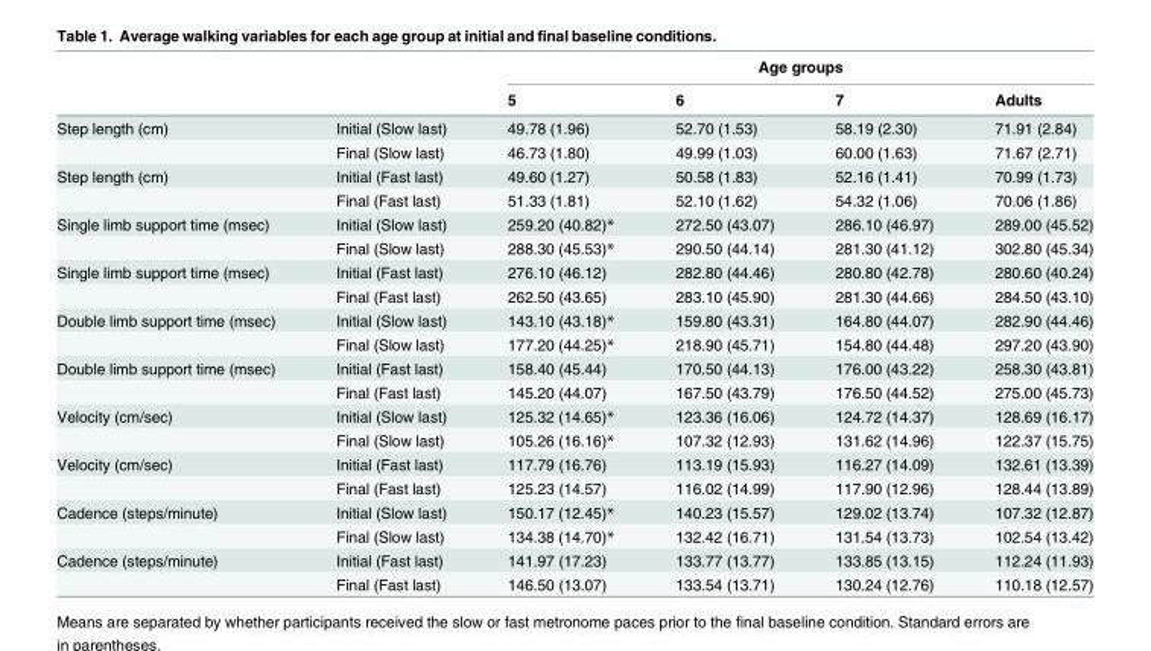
<table><thead><tr><td rowspan="2"></td><td rowspan="2"></td><td colspan="4">Age groups</td></tr><tr><td>5</td><td>6</td><td>7</td><td>Adults</td></tr></thead><tbody><tr><td rowspan="2">Step length (cm)</td><td>Initial (Slow last)</td><td>49.78 (1.96)</td><td>52.70 (1.53)</td><td>58.19 (2.30)</td><td>71.91 (2.84)</td></tr><tr><td>Final (Slow last)</td><td>46.73 (1.80)</td><td>49.99 (1.03)</td><td>60.00 (1.63)</td><td>71.67 (2.71)</td></tr><tr><td rowspan="2">Step length (cm)</td><td>Initial (Fast last)</td><td>49.60 (1.27)</td><td>50.58 (1.83)</td><td>52.16 (1.41)</td><td>70.99 (1.73)</td></tr><tr><td>Final (Fast last)</td><td>51.33 (1.81)</td><td>52.10 (1.62)</td><td>54.32 (1.06)</td><td>70.06 (1.86)</td></tr><tr><td rowspan="2">Single limb support time (msec)</td><td>Initial (Slow last)</td><td>259.20 (40.82)*</td><td>272.50 (43.07)</td><td>286.10 (46.97)</td><td>289.00 (45.52)</td></tr><tr><td>Final (Slow last)</td><td>288.30 (45.53)*</td><td>290.50 (44.14)</td><td>281.30 (41.12)</td><td>302.80 (45.34)</td></tr><tr><td rowspan="2">Single limb support time (msec)</td><td>Initial (Fast last)</td><td>276.10 (46.12)</td><td>282.80 (44.46)</td><td>280.80 (42.78)</td><td>280.60 (40.24)</td></tr><tr><td>Final (Fast last)</td><td>262.50 (43.65)</td><td>283.10 (45.90)</td><td>281.30 (44.66)</td><td>284.50 (43.10)</td></tr><tr><td rowspan="2">Double limb support time (msec)</td><td>Initial (Slow last)</td><td>143.10 (43.18)*</td><td>159.80 (43.31)</td><td>164.80 (44.07)</td><td>282.90 (44.46)</td></tr><tr><td>Final (Slow last)</td><td>177.20 (44.25)*</td><td>218.90 (45.71)</td><td>154.80 (44.48)</td><td>297.20 (43.90)</td></tr><tr><td rowspan="2">Double limb support time (msec)</td><td>Initial (Fast last)</td><td>158.40 (45.44)</td><td>170.50 (44.13)</td><td>176.00 (43.22)</td><td>258.30 (43.81)</td></tr><tr><td>Final (Fast last)</td><td>145.20 (44.07)</td><td>167.50 (43.79)</td><td>176.50 (44.52)</td><td>275.00 (45.73)</td></tr><tr><td rowspan="2">Velocity (cm/sec)</td><td>Initial (Slow last)</td><td>125.32 (14.65)*</td><td>123.36 (16.06)</td><td>124.72 (14.37)</td><td>128.69 (16.17)</td></tr><tr><td>Final (Slow last)</td><td>105.26 (16.16)*</td><td>107.32 (12.93)</td><td>131.62 (14.96)</td><td>122.37 (15.75)</td></tr><tr><td rowspan="2">Velocity (cm/sec)</td><td>Initial (Fast last)</td><td>117.79 (16.76)</td><td>113.19 (15.93)</td><td>116.27 (14.09)</td><td>132.61 (13.39)</td></tr><tr><td>Final (Fast last)</td><td>125.23 (14.57)</td><td>116.02 (14.99)</td><td>117.90 (12.96)</td><td>128.44 (13.89)</td></tr><tr><td rowspan="2">Cadence (steps/minute)</td><td>Initial (Slow last)</td><td>150.17 (12.45)*</td><td>140.23 (15.57)</td><td>129.02 (13.74)</td><td>107.32 (12.87)</td></tr><tr><td>Final (Slow last)</td><td>134.38 (14.70)*</td><td>132.42 (16.71)</td><td>131.54 (13.73)</td><td>102.54 (13.42)</td></tr><tr><td rowspan="2">Cadence (steps/minute)</td><td>Initial (Fast last)</td><td>141.97 (17.23)</td><td>133.77 (13.77)</td><td>133.85 (13.15)</td><td>112.24 (11.93)</td></tr><tr><td>Final (Fast last)</td><td>146.50 (13.07)</td><td>133.54 (13.71)</td><td>130.24 (12.76)</td><td>110.18 (12.57)</td></tr></tbody></table>